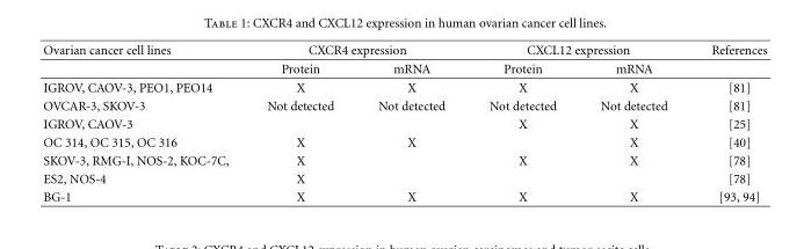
<table><thead><tr><td rowspan="2">Ovarian cancer cell lines</td><td colspan="2">CXCR4 expression</td><td colspan="2">CXCL12 expression</td><td rowspan="2">References</td></tr><tr><td>Protein</td><td>mRNA</td><td>Protein</td><td>mRNA</td></tr></thead><tbody><tr><td>IGROV, CAOV-3, PEO1, PEO14</td><td>X</td><td>X</td><td>X</td><td>X</td><td>[81]</td></tr><tr><td>OVCAR-3, SKOV-3</td><td>Not detected</td><td>Not detected</td><td>Not detected</td><td>Not detected</td><td>[81]</td></tr><tr><td>IGROV, CAOV-3</td><td></td><td></td><td>X</td><td>X</td><td>[25]</td></tr><tr><td>OC 314, OC 315, OC 316</td><td>X</td><td>X</td><td></td><td>X</td><td>[40]</td></tr><tr><td>SKOV-3, RMG-I, NOS-2, KOC-7C,</td><td>X</td><td></td><td>X</td><td>X</td><td>[78]</td></tr><tr><td>ES2, NOS-4</td><td>X</td><td></td><td></td><td></td><td>[78]</td></tr><tr><td>BG-1</td><td>X</td><td>X</td><td>X</td><td>X</td><td>[93, 94]</td></tr></tbody></table>